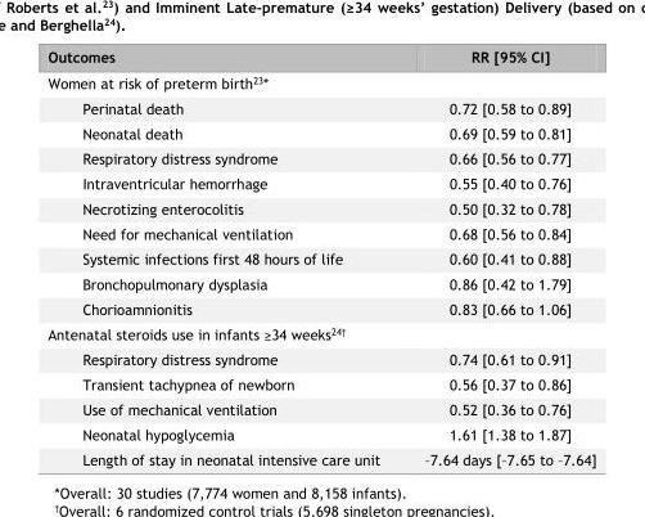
<table><thead><tr><td>Outcomes</td><td>RR [95% CI]</td></tr></thead><tbody><tr><td colspan="2">Women at risk of preterm birth<sup>23</sup>*</td></tr><tr><td>Perinatal death</td><td>0.72 [0.58 to 0.89]</td></tr><tr><td>Neonatal death</td><td>0.69 [0.59 to 0.81]</td></tr><tr><td>Respiratory distress syndrome</td><td>0.66 [0.56 to 0.77]</td></tr><tr><td>Intraventricular hemorrhage</td><td>0.55 [0.40 to 0.76]</td></tr><tr><td>Necrotizing enterocolitis</td><td>0.50 [0.32 to 0.78]</td></tr><tr><td>Need for mechanical ventilation</td><td>0.68 [0.56 to 0.84]</td></tr><tr><td>Systemic infections first 48 hours of life</td><td>0.60 [0.41 to 0.88]</td></tr><tr><td>Bronchopulmonary dysplasia</td><td>0.86 [0.42 to 1.79]</td></tr><tr><td>Chorioamnionitis</td><td>0.83 [0.66 to 1.06]</td></tr><tr><td colspan="2">Antenatal steroids use in infants ≥34 weeks<sup>24</sup>†</td></tr><tr><td>Respiratory distress syndrome</td><td>0.74 [0.61 to 0.91]</td></tr><tr><td>Transient tachypnea of newborn</td><td>0.56 [0.37 to 0.86]</td></tr><tr><td>Use of mechanical ventilation</td><td>0.52 [0.36 to 0.76]</td></tr><tr><td>Neonatal hypoglycemia</td><td>1.61 [1.38 to 1.87]</td></tr><tr><td>Length of stay in neonatal intensive care unit</td><td>–7.64 days [–7.65 to –7.64]</td></tr></tbody></table>